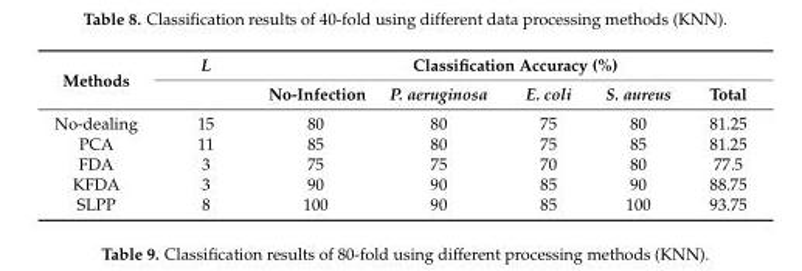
<table><thead><tr><td rowspan="2">Methods</td><td rowspan="2">L</td><td colspan="5">Classification Accuracy (%)</td></tr><tr><td>No-Infection</td><td>P. aeruginosa</td><td>E. coli</td><td>S. aureus</td><td>Total</td></tr></thead><tbody><tr><td>No-dealing</td><td>15</td><td>80</td><td>80</td><td>75</td><td>80</td><td>81.25</td></tr><tr><td>PCA</td><td>11</td><td>85</td><td>80</td><td>75</td><td>85</td><td>81.25</td></tr><tr><td>FDA</td><td>3</td><td>75</td><td>75</td><td>70</td><td>80</td><td>77.5</td></tr><tr><td>KFDA</td><td>3</td><td>90</td><td>90</td><td>85</td><td>90</td><td>88.75</td></tr><tr><td>SLPP</td><td>8</td><td>100</td><td>90</td><td>85</td><td>100</td><td>93.75</td></tr></tbody></table>